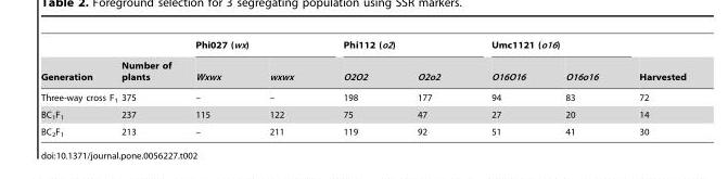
<table><thead><tr><td rowspan="2">Generation</td><td rowspan="2">Number of plants</td><td colspan="2">Phi027 (wx)</td><td colspan="2">Phi112 (o2)</td><td colspan="2">Umc1121 (o16)</td><td rowspan="2">Harvested</td></tr><tr><td>Wxwx</td><td>wxwx</td><td>O2O2</td><td>O2o2</td><td>O16O16</td><td>O16o16</td></tr></thead><tbody><tr><td>Three-way cross F<sub>1</sub></td><td>375</td><td>–</td><td>–</td><td>198</td><td>177</td><td>94</td><td>83</td><td>72</td></tr><tr><td>BC<sub>1</sub>F<sub>1</sub></td><td>237</td><td>115</td><td>122</td><td>75</td><td>47</td><td>27</td><td>20</td><td>14</td></tr><tr><td>BC<sub>2</sub>F<sub>1</sub></td><td>213</td><td>–</td><td>211</td><td>119</td><td>92</td><td>51</td><td>41</td><td>30</td></tr></tbody></table>